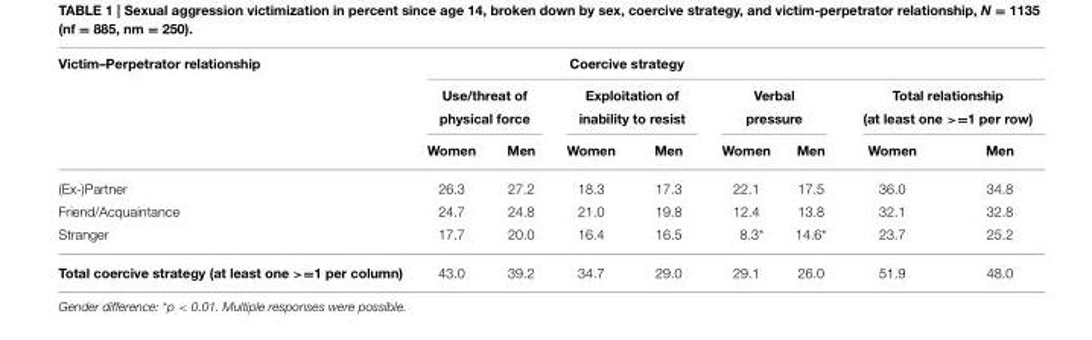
<table><thead><tr><td rowspan="3">Victim–Perpetrator relationship</td><td colspan="6">Coercive strategy</td><td></td><td></td></tr><tr><td colspan="2">Use/threat of physical force</td><td colspan="2">Exploitation of inability to resist</td><td colspan="2">Verbal pressure</td><td colspan="2">Total relationship (at least one &gt;=1 per row)</td></tr><tr><td>Women</td><td>Men</td><td>Women</td><td>Men</td><td>Women</td><td>Men</td><td>Women</td><td>Men</td></tr></thead><tbody><tr><td>(Ex-)Partner</td><td>26.3</td><td>27.2</td><td>18.3</td><td>17.3</td><td>22.1</td><td>17.5</td><td>36.0</td><td>34.8</td></tr><tr><td>Friend/Acquaintance</td><td>24.7</td><td>24.8</td><td>21.0</td><td>19.8</td><td>12.4</td><td>13.8</td><td>32.1</td><td>32.8</td></tr><tr><td>Stranger</td><td>17.7</td><td>20.0</td><td>16.4</td><td>16.5</td><td>8.3*</td><td>14.6*</td><td>23.7</td><td>25.2</td></tr><tr><td>Total coercive strategy (at least one &gt;=1 per column)</td><td>43.0</td><td>39.2</td><td>34.7</td><td>29.0</td><td>29.1</td><td>26.0</td><td>51.9</td><td>48.0</td></tr></tbody></table>